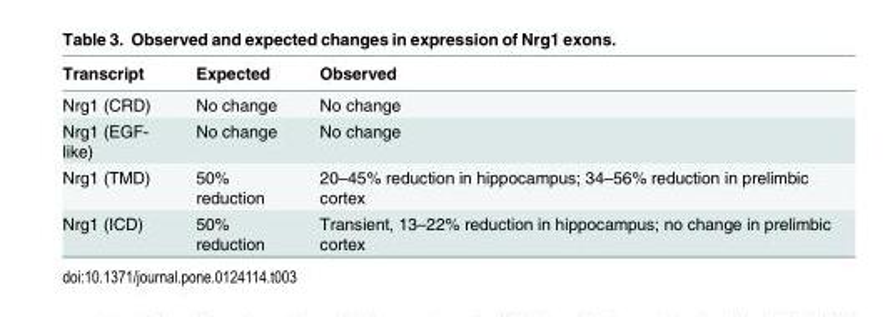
<table><thead><tr><td>Transcript</td><td>Expected</td><td>Observed</td></tr></thead><tbody><tr><td>Nrg1 (CRD)</td><td>No change</td><td>No change</td></tr><tr><td>Nrg1 (EGF- like)</td><td>No change</td><td>No change</td></tr><tr><td>Nrg1 (TMD)</td><td>50% reduction</td><td>20–45% reduction in hippocampus; 34–56% reduction in prelimbic cortex</td></tr><tr><td>Nrg1 (ICD)</td><td>50% reduction</td><td>Transient, 13–22% reduction in hippocampus; no change in prelimbic cortex</td></tr></tbody></table>